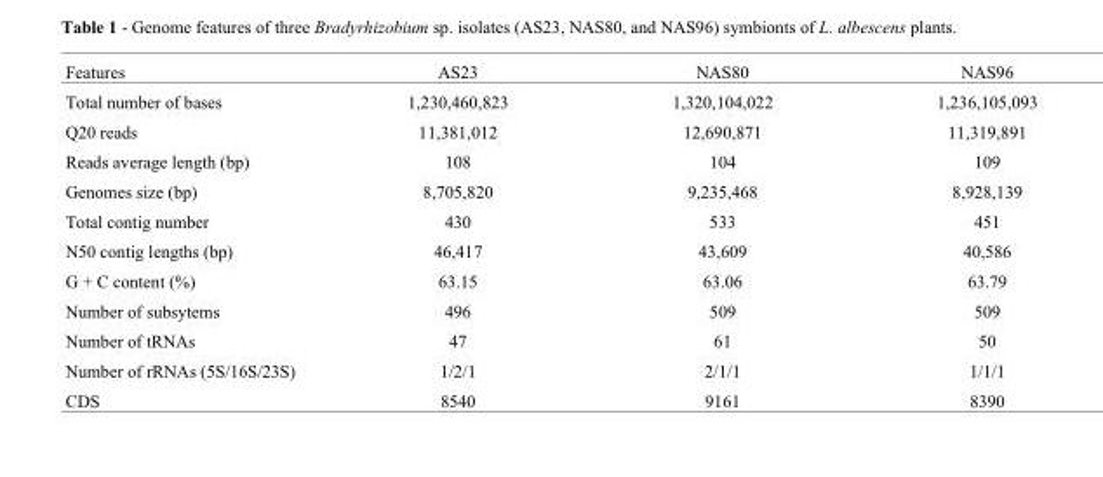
<table><thead><tr><td>Features</td><td>AS23</td><td>NAS80</td><td>NAS96</td></tr></thead><tbody><tr><td>Total number of bases</td><td>1,230,460,823</td><td>1,320,104,022</td><td>1,236,105,093</td></tr><tr><td>Q20 reads</td><td>11,381,012</td><td>12,690,871</td><td>11,319,891</td></tr><tr><td>Reads average length (bp)</td><td>108</td><td>104</td><td>109</td></tr><tr><td>Genomes size (bp)</td><td>8,705,820</td><td>9,235,468</td><td>8,928,139</td></tr><tr><td>Total contig number</td><td>430</td><td>533</td><td>451</td></tr><tr><td>N50 contig lengths (bp)</td><td>46,417</td><td>43,609</td><td>40,586</td></tr><tr><td>G + C content (%)</td><td>63.15</td><td>63.06</td><td>63.79</td></tr><tr><td>Number of subsytems</td><td>496</td><td>509</td><td>509</td></tr><tr><td>Number of tRNAs</td><td>47</td><td>61</td><td>50</td></tr><tr><td>Number of rRNAs (5S/16S/23S)</td><td>1/2/1</td><td>2/1/1</td><td>1/1/1</td></tr><tr><td>CDS</td><td>8540</td><td>9161</td><td>8390</td></tr></tbody></table>